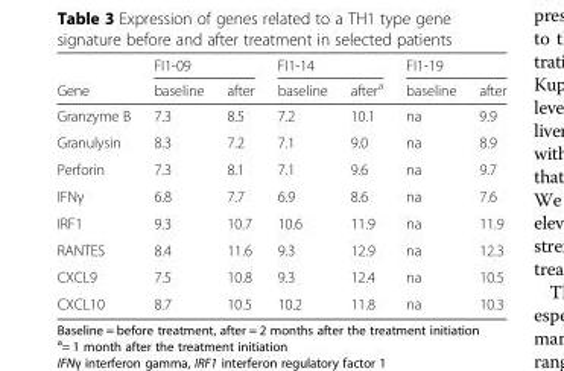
<table><thead><tr><td rowspan="2">Gene</td><td colspan="2">FI1-09</td><td colspan="2">FI1-14</td><td colspan="2">FI1-19</td></tr><tr><td>baseline</td><td>after</td><td>baseline</td><td>after<sup>a</sup></td><td>baseline</td><td>after</td></tr></thead><tbody><tr><td>Granzyme B</td><td>7.3</td><td>8.5</td><td>7.2</td><td>10.1</td><td>na</td><td>9.9</td></tr><tr><td>Granulysin</td><td>8.3</td><td>7.2</td><td>7.1</td><td>9.0</td><td>na</td><td>8.9</td></tr><tr><td>Perforin</td><td>7.3</td><td>8.1</td><td>7.1</td><td>9.6</td><td>na</td><td>9.7</td></tr><tr><td>IFNγ</td><td>6.8</td><td>7.7</td><td>6.9</td><td>8.6</td><td>na</td><td>7.6</td></tr><tr><td>IRF1</td><td>9.3</td><td>10.7</td><td>10.6</td><td>11.9</td><td>na</td><td>11.9</td></tr><tr><td>RANTES</td><td>8.4</td><td>11.6</td><td>9.3</td><td>12.9</td><td>na</td><td>12.3</td></tr><tr><td>CXCL9</td><td>7.5</td><td>10.8</td><td>9.3</td><td>12.4</td><td>na</td><td>10.5</td></tr><tr><td>CXCL10</td><td>8.7</td><td>10.5</td><td>10.2</td><td>11.8</td><td>na</td><td>10.3</td></tr></tbody></table>